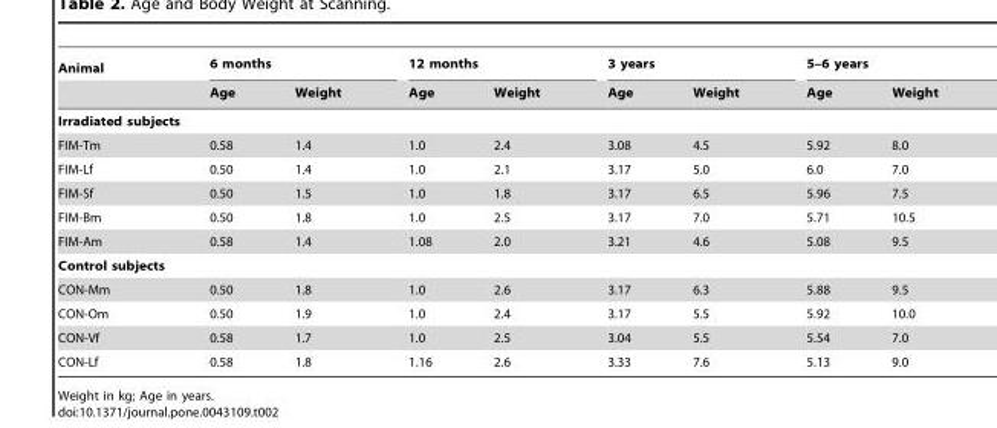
<table><thead><tr><td rowspan="2">Animal</td><td colspan="2">6 months</td><td colspan="2">12 months</td><td colspan="2">3 years</td><td colspan="2">5–6 years</td></tr><tr><td>Age</td><td>Weight</td><td>Age</td><td>Weight</td><td>Age</td><td>Weight</td><td>Age</td><td>Weight</td></tr></thead><tbody><tr><td colspan="9">Irradiated subjects</td></tr><tr><td>FIM-Tm</td><td>0.58</td><td>1.4</td><td>1.0</td><td>2.4</td><td>3.08</td><td>4.5</td><td>5.92</td><td>8.0</td></tr><tr><td>FIM-Lf</td><td>0.50</td><td>1.4</td><td>1.0</td><td>2.1</td><td>3.17</td><td>5.0</td><td>6.0</td><td>7.0</td></tr><tr><td>FIM-Sf</td><td>0.50</td><td>1.5</td><td>1.0</td><td>1.8</td><td>3.17</td><td>6.5</td><td>5.96</td><td>7.5</td></tr><tr><td>FIM-Bm</td><td>0.50</td><td>1.8</td><td>1.0</td><td>2.5</td><td>3.17</td><td>7.0</td><td>5.71</td><td>10.5</td></tr><tr><td>FIM-Am</td><td>0.58</td><td>1.4</td><td>1.08</td><td>2.0</td><td>3.21</td><td>4.6</td><td>5.08</td><td>9.5</td></tr><tr><td colspan="9">Control subjects</td></tr><tr><td>CON-Mm</td><td>0.50</td><td>1.8</td><td>1.0</td><td>2.6</td><td>3.17</td><td>6.3</td><td>5.88</td><td>9.5</td></tr><tr><td>CON-Om</td><td>0.50</td><td>1.9</td><td>1.0</td><td>2.4</td><td>3.17</td><td>5.5</td><td>5.92</td><td>10.0</td></tr><tr><td>CON-Vf</td><td>0.58</td><td>1.7</td><td>1.0</td><td>2.5</td><td>3.04</td><td>5.5</td><td>5.54</td><td>7.0</td></tr><tr><td>CON-Lf</td><td>0.58</td><td>1.8</td><td>1.16</td><td>2.6</td><td>3.33</td><td>7.6</td><td>5.13</td><td>9.0</td></tr></tbody></table>